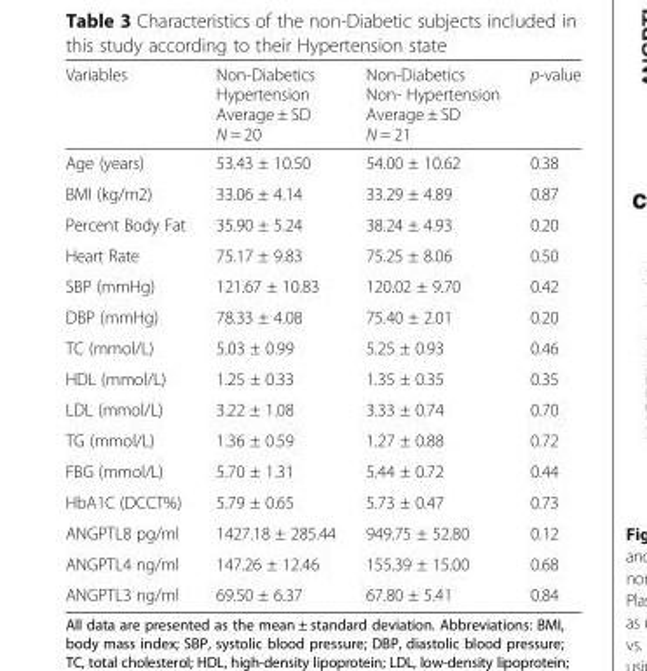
<table><thead><tr><td>Variables</td><td>Non-Diabetics Hypertension Average ± SD N = 20</td><td>Non-Diabetics Non- Hypertension Average ± SD N = 21</td><td>p-value</td></tr></thead><tbody><tr><td>Age (years)</td><td>53.43 ± 10.50</td><td>54.00 ± 10.62</td><td>0.38</td></tr><tr><td>BMI (kg/m2)</td><td>33.06 ± 4.14</td><td>33.29 ± 4.89</td><td>0.87</td></tr><tr><td>Percent Body Fat</td><td>35.90 ± 5.24</td><td>38.24 ± 4.93</td><td>0.20</td></tr><tr><td>Heart Rate</td><td>75.17 ± 9.83</td><td>75.25 ± 8.06</td><td>0.50</td></tr><tr><td>SBP (mmHg)</td><td>121.67 ± 10.83</td><td>120.02 ± 9.70</td><td>0.42</td></tr><tr><td>DBP (mmHg)</td><td>78.33 ± 4.08</td><td>75.40 ± 2.01</td><td>0.20</td></tr><tr><td>TC (mmol/L)</td><td>5.03 ± 0.99</td><td>5.25 ± 0.93</td><td>0.46</td></tr><tr><td>HDL (mmol/L)</td><td>1.25 ± 0.33</td><td>1.35 ± 0.35</td><td>0.35</td></tr><tr><td>LDL (mmol/L)</td><td>3.22 ± 1.08</td><td>3.33 ± 0.74</td><td>0.70</td></tr><tr><td>TG (mmol/L)</td><td>1.36 ± 0.59</td><td>1.27 ± 0.88</td><td>0.72</td></tr><tr><td>FBG (mmol/L)</td><td>5.70 ± 1.31</td><td>5.44 ± 0.72</td><td>0.44</td></tr><tr><td>HbA1C (DCCT%)</td><td>5.79 ± 0.65</td><td>5.73 ± 0.47</td><td>0.73</td></tr><tr><td>ANGPTL8 pg/ml</td><td>1427.18 ± 285.44</td><td>949.75 ± 52.80</td><td>0.12</td></tr><tr><td>ANGPTL4 ng/ml</td><td>147.26 ± 12.46</td><td>155.39 ± 15.00</td><td>0.68</td></tr><tr><td>ANGPTL3 ng/ml</td><td>69.50 ± 6.37</td><td>67.80 ± 5.41</td><td>0.84</td></tr></tbody></table>